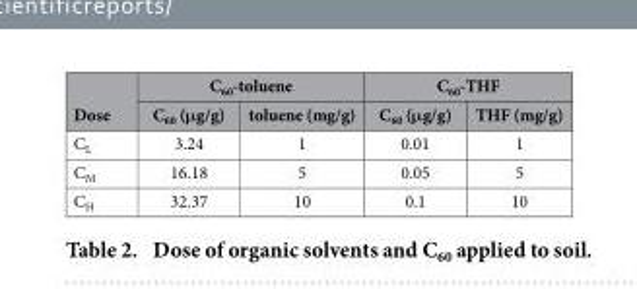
<table><thead><tr><td rowspan="2">Dose</td><td colspan="2">C<sub>60</sub>-toluene</td><td colspan="2">C<sub>60</sub>-THF</td></tr><tr><td>C<sub>60</sub> (μg/g)</td><td>toluene (mg/g)</td><td>C<sub>60</sub> (μg/g)</td><td>THF (mg/g)</td></tr></thead><tbody><tr><td>C<sub>L</sub></td><td>3.24</td><td>1</td><td>0.01</td><td>1</td></tr><tr><td>C<sub>M</sub></td><td>16.18</td><td>5</td><td>0.05</td><td>5</td></tr><tr><td>C<sub>H</sub></td><td>32.37</td><td>10</td><td>0.1</td><td>10</td></tr></tbody></table>